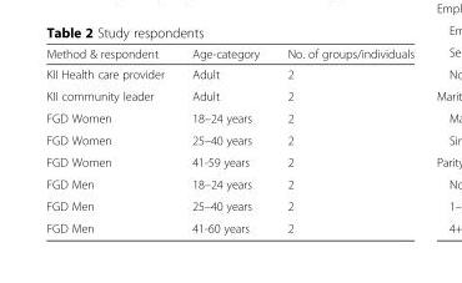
<table><thead><tr><td>Method &amp; respondent</td><td>Age-category</td><td>No. of groups/individuals</td></tr></thead><tbody><tr><td>KII Health care provider</td><td>Adult</td><td>2</td></tr><tr><td>KII community leader</td><td>Adult</td><td>2</td></tr><tr><td>FGD Women</td><td>18–24 years</td><td>2</td></tr><tr><td>FGD Women</td><td>25–40 years</td><td>2</td></tr><tr><td>FGD Women</td><td>41-59 years</td><td>2</td></tr><tr><td>FGD Men</td><td>18–24 years</td><td>2</td></tr><tr><td>FGD Men</td><td>25–40 years</td><td>2</td></tr><tr><td>FGD Men</td><td>41-60 years</td><td>2</td></tr></tbody></table>